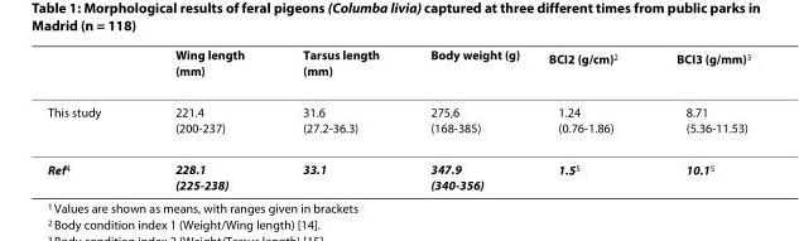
<table><thead><tr><td></td><td>Wing length (mm)</td><td>Tarsus length (mm)</td><td>Body weight (g)</td><td>BCI<sup>2</sup> (g/cm)<sup>2</sup></td><td>BCI<sup>3</sup> (g/mm)<sup>3</sup></td></tr></thead><tbody><tr><td>This study</td><td>221.4 (200-237)</td><td>31.6 (27.2-36.3)</td><td>275,6 (168-385)</td><td>1.24 (0.76-1.86)</td><td>8.71 (5.36-11.53)</td></tr><tr><td>Ref<sup>4</sup></td><td>228.1 (225-238)</td><td>33.1</td><td>347.9 (340-356)</td><td>1.5<sup>5</sup></td><td>10.1<sup>5</sup></td></tr></tbody></table>